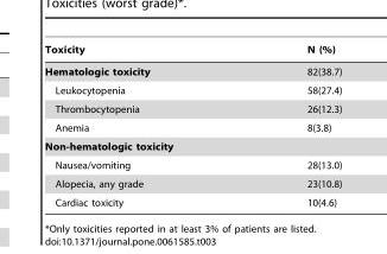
<table><thead><tr><td>Toxicity</td><td>N (%)</td></tr></thead><tbody><tr><td>Hematologic toxicity</td><td>82(38.7)</td></tr><tr><td>Leukocytopenia</td><td>58(27.4)</td></tr><tr><td>Thrombocytopenia</td><td>26(12.3)</td></tr><tr><td>Anemia</td><td>8(3.8)</td></tr><tr><td colspan="2">Non-hematologic toxicity</td></tr><tr><td>Nausea/vomiting</td><td>28(13.0)</td></tr><tr><td>Alopecia, any grade</td><td>23(10.8)</td></tr><tr><td>Cardiac toxicity</td><td>10(4.6)</td></tr></tbody></table>